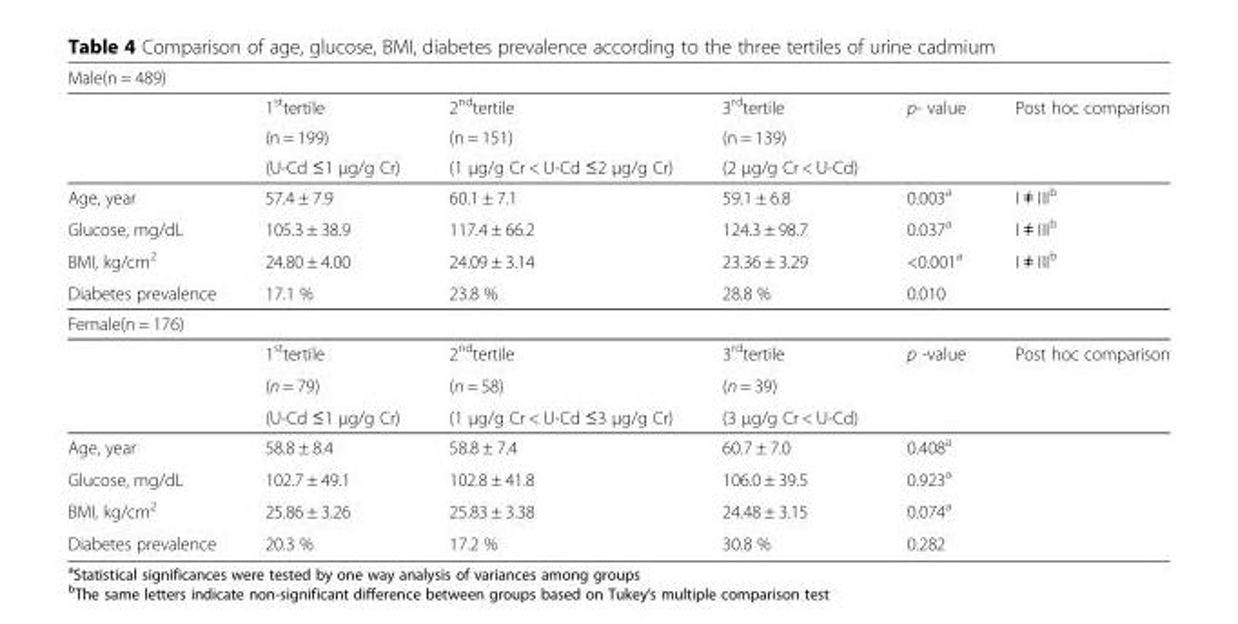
<table><thead><tr><td rowspan="4">Male(n = 489)</td><td rowspan="4">1sttertile (n = 199) (U-Cd ≤1 μg/g Cr)</td><td rowspan="4">2ndtertile (n = 151) (1 μg/g Cr &lt; U-Cd ≤2 μg/g Cr)</td><td rowspan="4">3rdtertile (n = 139) (2 μg/g Cr &lt; U-Cd)</td><td rowspan="4">p- value</td><td rowspan="4">Post hoc comparison</td></tr><tr></tr><tr></tr><tr></tr></thead><tbody><tr><td>Age, year</td><td>57.4 ± 7.9</td><td>60.1 ± 7.1</td><td>59.1 ± 6.8</td><td>0.003<sup>a</sup></td><td>I ≠ III<sup>b</sup></td></tr><tr><td>Glucose, mg/dL</td><td>105.3 ± 38.9</td><td>117.4 ± 66.2</td><td>124.3 ± 98.7</td><td>0.037<sup>a</sup></td><td>I ≠ III<sup>b</sup></td></tr><tr><td>BMI, kg/cm<sup>2</sup></td><td>24.80 ± 4.00</td><td>24.09 ± 3.14</td><td>23.36 ± 3.29</td><td>&lt;0.001<sup>a</sup></td><td>I ≠ III<sup>b</sup></td></tr><tr><td>Diabetes prevalence</td><td>17.1 %</td><td>23.8 %</td><td>28.8 %</td><td>0.010</td><td></td></tr><tr><td colspan="6">Female(n = 176)</td></tr><tr><td rowspan="3"></td><td>1<sup>st</sup>tertile</td><td>2<sup>nd</sup>tertile</td><td>3<sup>rd</sup>tertile</td><td rowspan="3">p -value</td><td rowspan="3">Post hoc comparison</td></tr><tr><td>(n = 79)</td><td>(n = 58)</td><td>(n = 39)</td></tr><tr><td>(U-Cd ≤1 μg/g Cr)</td><td>(1 μg/g Cr &lt; U-Cd ≤3 μg/g Cr)</td><td>(3 μg/g Cr &lt; U-Cd)</td></tr><tr><td>Age, year</td><td>58.8 ± 8.4</td><td>58.8 ± 7.4</td><td>60.7 ± 7.0</td><td>0.408<sup>a</sup></td><td></td></tr><tr><td>Glucose, mg/dL</td><td>102.7 ± 49.1</td><td>102.8 ± 41.8</td><td>106.0 ± 39.5</td><td>0.923<sup>a</sup></td><td></td></tr><tr><td>BMI, kg/cm<sup>2</sup></td><td>25.86 ± 3.26</td><td>25.83 ± 3.38</td><td>24.48 ± 3.15</td><td>0.074<sup>a</sup></td><td></td></tr><tr><td>Diabetes prevalence</td><td>20.3 %</td><td>17.2 %</td><td>30.8 %</td><td>0.282</td><td></td></tr></tbody></table>